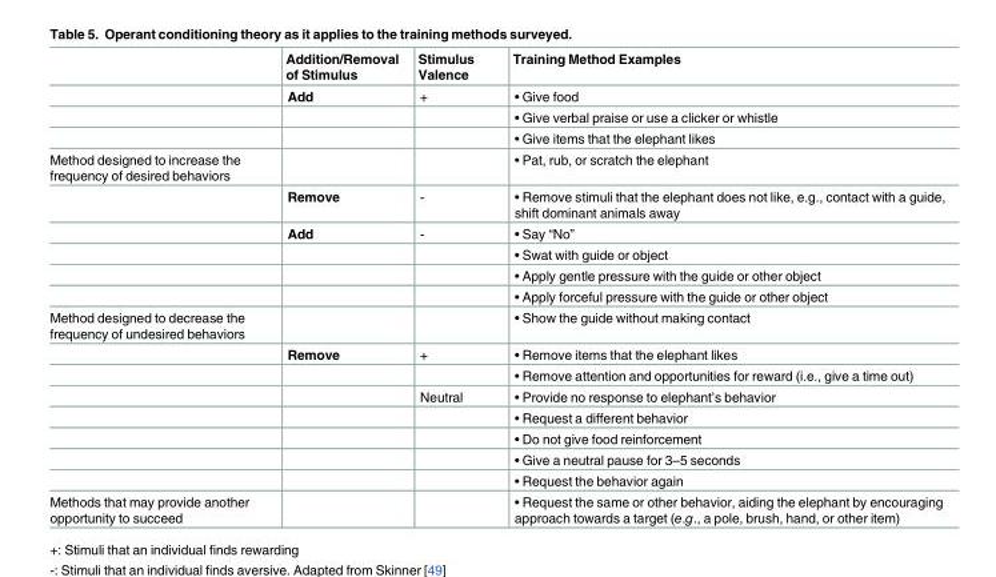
<table><thead><tr><td></td><td>Addition/Removal of Stimulus</td><td>Stimulus Valence</td><td>Training Method Examples</td></tr></thead><tbody><tr><td></td><td>Add</td><td>+</td><td>• Give food</td></tr><tr><td></td><td></td><td></td><td>• Give verbal praise or use a clicker or whistle</td></tr><tr><td></td><td></td><td></td><td>• Give items that the elephant likes</td></tr><tr><td rowspan="6">Method designed to increase the frequency of desired behaviors</td><td></td><td></td><td>• Pat, rub, or scratch the elephant</td></tr><tr><td>Remove</td><td>-</td><td>• Remove stimuli that the elephant does not like, e.g., contact with a guide, shift dominant animals away</td></tr><tr><td>Add</td><td>-</td><td>• Say “No”</td></tr><tr><td></td><td></td><td>• Swat with guide or object</td></tr><tr><td></td><td></td><td>• Apply gentle pressure with the guide or other object</td></tr><tr><td></td><td></td><td>• Apply forceful pressure with the guide or other object</td></tr><tr><td rowspan="8">Method designed to decrease the frequency of undesired behaviors</td><td></td><td></td><td>• Show the guide without making contact</td></tr><tr><td>Remove</td><td>+</td><td>• Remove items that the elephant likes</td></tr><tr><td></td><td></td><td>• Remove attention and opportunities for reward (i.e., give a time out)</td></tr><tr><td></td><td>Neutral</td><td>• Provide no response to elephant’s behavior</td></tr><tr><td></td><td></td><td>• Request a different behavior</td></tr><tr><td></td><td></td><td>• Do not give food reinforcement</td></tr><tr><td></td><td></td><td>• Give a neutral pause for 3–5 seconds</td></tr><tr><td></td><td></td><td>• Request the behavior again</td></tr><tr><td>Methods that may provide another opportunity to succeed</td><td></td><td></td><td>• Request the same or other behavior, aiding the elephant by encouraging approach towards a target (e.g., a pole, brush, hand, or other item)</td></tr></tbody></table>